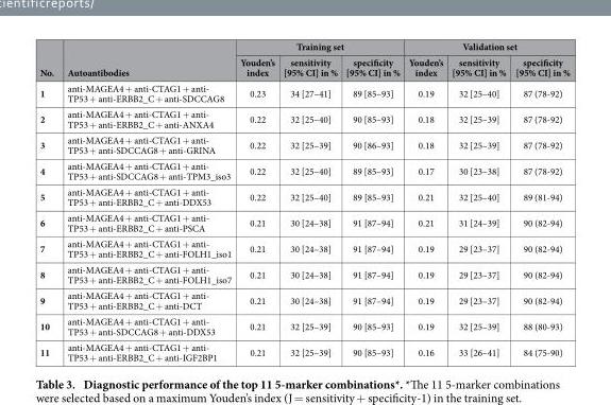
<table><thead><tr><td rowspan="2">No.</td><td rowspan="2">Autoantibodies</td><td colspan="3">Training set</td><td colspan="3">Validation set</td></tr><tr><td>Youden’s index</td><td>sensitivity [95% CI] in %</td><td>specificity [95% CI] in %</td><td>Youden’s index</td><td>sensitivity [95% CI] in %</td><td>specificity [95% CI] in %</td></tr></thead><tbody><tr><td>1</td><td>anti-MAGEA4 + anti-CTAG1 + anti- TP53 + anti-ERBB2_C + anti-SDCCAG8</td><td>0.23</td><td>34 [27–41]</td><td>89 [85–93]</td><td>0.19</td><td>32 [25–40]</td><td>87 (78-92)</td></tr><tr><td>2</td><td>anti-MAGEA4 + anti-CTAG1 + anti- TP53 + anti-ERBB2_C + anti-ANXA4</td><td>0.22</td><td>32 [25–40]</td><td>90 [85–93]</td><td>0.18</td><td>32 [25–39]</td><td>87 (78-92)</td></tr><tr><td>3</td><td>anti-MAGEA4 + anti-CTAG1 + anti- TP53 + anti-SDCCAG8 + anti-GRINA</td><td>0.22</td><td>32 [25–39]</td><td>90 [86–93]</td><td>0.18</td><td>32 [25–39]</td><td>87 (78-92)</td></tr><tr><td>4</td><td>anti-MAGEA4 + anti-CTAG1 + anti- TP53 + anti-SDCCAG8 + anti-TPM3_iso3</td><td>0.22</td><td>32 [25–40]</td><td>89 [85–93]</td><td>0.17</td><td>30 [23–38]</td><td>87 (78-92)</td></tr><tr><td>5</td><td>anti-MAGEA4 + anti-CTAG1 + anti- TP53 + anti-ERBB2_C + anti-DDX53</td><td>0.22</td><td>32 [25–40]</td><td>89 [85–93]</td><td>0.21</td><td>32 [25–40]</td><td>89 (81-94)</td></tr><tr><td>6</td><td>anti-MAGEA4 + anti-CTAG1 + anti- TP53 + anti-ERBB2_C + anti-PSCA</td><td>0.21</td><td>30 [24–38]</td><td>91 [87–94]</td><td>0.21</td><td>31 [24–39]</td><td>90 (82-94)</td></tr><tr><td>7</td><td>anti-MAGEA4 + anti-CTAG1 + anti- TP53 + anti-ERBB2_C + anti-FOLH1_iso1</td><td>0.21</td><td>30 [24–38]</td><td>91 [87–94]</td><td>0.19</td><td>29 [23–37]</td><td>90 (82-94)</td></tr><tr><td>8</td><td>anti-MAGEA4 + anti-CTAG1 + anti- TP53 + anti-ERBB2_C + anti-FOLH1_iso7</td><td>0.21</td><td>30 [24–38]</td><td>91 [87–94]</td><td>0.19</td><td>29 [23–37]</td><td>90 (82-94)</td></tr><tr><td>9</td><td>anti-MAGEA4 + anti-CTAG1 + anti- TP53 + anti-ERBB2_C + anti-DCT</td><td>0.21</td><td>30 [24–38]</td><td>91 [87–94]</td><td>0.19</td><td>29 [23–37]</td><td>90 (82-94)</td></tr><tr><td>10</td><td>anti-MAGEA4 + anti-CTAG1 + anti- TP53 + anti-SDCCAG8 + anti-DDX53</td><td>0.21</td><td>32 [25–39]</td><td>90 [85–93]</td><td>0.19</td><td>32 [25–39]</td><td>88 (80-93)</td></tr><tr><td>11</td><td>anti-MAGEA4 + anti-CTAG1 + anti- TP53 + anti-ERBB2_C + anti-IGF2BP1</td><td>0.21</td><td>32 [25–39]</td><td>90 [85–93]</td><td>0.16</td><td>33 [26–41]</td><td>84 (75-90)</td></tr></tbody></table>